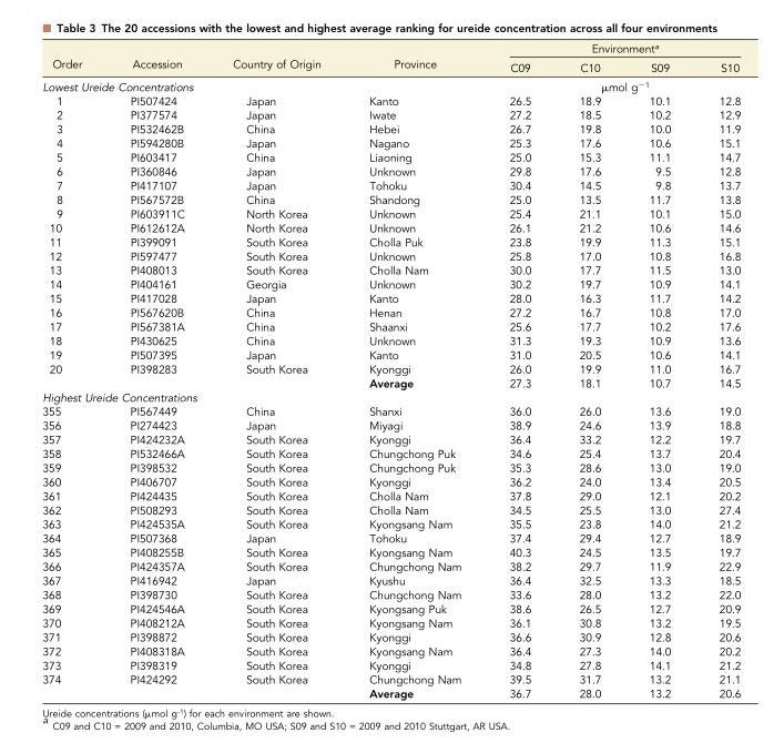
<table><thead><tr><td rowspan="2">Order</td><td rowspan="2">Accession</td><td rowspan="2">Country of Origin</td><td rowspan="2">Province</td><td colspan="4">Environment<sup>a</sup></td></tr><tr><td>C09</td><td>C10</td><td>S09</td><td>S10</td></tr></thead><tbody><tr><td colspan="3">Lowest Ureide Concentrations</td><td></td><td colspan="4">μmol g<sup>−1</sup></td></tr><tr><td>1</td><td>PI507424</td><td>Japan</td><td>Kanto</td><td>26.5</td><td>18.9</td><td>10.1</td><td>12.8</td></tr><tr><td>2</td><td>PI377574</td><td>Japan</td><td>Iwate</td><td>27.2</td><td>18.5</td><td>10.2</td><td>12.9</td></tr><tr><td>3</td><td>PI532462B</td><td>China</td><td>Hebei</td><td>26.7</td><td>19.8</td><td>10.0</td><td>11.9</td></tr><tr><td>4</td><td>PI594280B</td><td>Japan</td><td>Nagano</td><td>25.3</td><td>17.6</td><td>10.6</td><td>15.1</td></tr><tr><td>5</td><td>PI603417</td><td>China</td><td>Liaoning</td><td>25.0</td><td>15.3</td><td>11.1</td><td>14.7</td></tr><tr><td>6</td><td>PI360846</td><td>Japan</td><td>Unknown</td><td>29.8</td><td>17.6</td><td>9.5</td><td>12.8</td></tr><tr><td>7</td><td>PI417107</td><td>Japan</td><td>Tohoku</td><td>30.4</td><td>14.5</td><td>9.8</td><td>13.7</td></tr><tr><td>8</td><td>PI567572B</td><td>China</td><td>Shandong</td><td>25.0</td><td>13.5</td><td>11.7</td><td>13.8</td></tr><tr><td>9</td><td>PI603911C</td><td>North Korea</td><td>Unknown</td><td>25.4</td><td>21.1</td><td>10.1</td><td>15.0</td></tr><tr><td>10</td><td>PI612612A</td><td>North Korea</td><td>Unknown</td><td>26.1</td><td>21.2</td><td>10.6</td><td>14.6</td></tr><tr><td>11</td><td>PI399091</td><td>South Korea</td><td>Cholla Puk</td><td>23.8</td><td>19.9</td><td>11.3</td><td>15.1</td></tr><tr><td>12</td><td>PI597477</td><td>South Korea</td><td>Unknown</td><td>25.8</td><td>17.0</td><td>10.8</td><td>16.8</td></tr><tr><td>13</td><td>PI408013</td><td>South Korea</td><td>Cholla Nam</td><td>30.0</td><td>17.7</td><td>11.5</td><td>13.0</td></tr><tr><td>14</td><td>PI404161</td><td>Georgia</td><td>Unknown</td><td>30.2</td><td>19.7</td><td>10.9</td><td>14.1</td></tr><tr><td>15</td><td>PI417028</td><td>Japan</td><td>Kanto</td><td>28.0</td><td>16.3</td><td>11.7</td><td>14.2</td></tr><tr><td>16</td><td>PI567620B</td><td>China</td><td>Henan</td><td>27.2</td><td>16.7</td><td>10.8</td><td>17.0</td></tr><tr><td>17</td><td>PI567381A</td><td>China</td><td>Shaanxi</td><td>25.6</td><td>17.7</td><td>10.2</td><td>17.6</td></tr><tr><td>18</td><td>PI430625</td><td>China</td><td>Unknown</td><td>31.3</td><td>19.3</td><td>10.9</td><td>13.6</td></tr><tr><td>19</td><td>PI507395</td><td>Japan</td><td>Kanto</td><td>31.0</td><td>20.5</td><td>10.6</td><td>14.1</td></tr><tr><td rowspan="2">20</td><td>PI398283</td><td>South Korea</td><td>Kyonggi</td><td>26.0</td><td>19.9</td><td>11.0</td><td>16.7</td></tr><tr><td></td><td></td><td>Average</td><td>27.3</td><td>18.1</td><td>10.7</td><td>14.5</td></tr><tr><td colspan="8">Highest Ureide Concentrations</td></tr><tr><td>355</td><td>PI567449</td><td>China</td><td>Shanxi</td><td>36.0</td><td>26.0</td><td>13.6</td><td>19.0</td></tr><tr><td>356</td><td>PI274423</td><td>Japan</td><td>Miyagi</td><td>38.9</td><td>24.6</td><td>13.9</td><td>18.8</td></tr><tr><td>357</td><td>PI424232A</td><td>South Korea</td><td>Kyonggi</td><td>36.4</td><td>33.2</td><td>12.2</td><td>19.7</td></tr><tr><td>358</td><td>PI532466A</td><td>South Korea</td><td>Chungchong Puk</td><td>34.6</td><td>25.4</td><td>13.7</td><td>20.4</td></tr><tr><td>359</td><td>PI398532</td><td>South Korea</td><td>Chungchong Puk</td><td>35.3</td><td>28.6</td><td>13.0</td><td>19.0</td></tr><tr><td>360</td><td>PI406707</td><td>South Korea</td><td>Kyonggi</td><td>36.2</td><td>24.0</td><td>13.4</td><td>20.5</td></tr><tr><td>361</td><td>PI424435</td><td>South Korea</td><td>Cholla Nam</td><td>37.8</td><td>29.0</td><td>12.1</td><td>20.2</td></tr><tr><td>362</td><td>PI508293</td><td>South Korea</td><td>Cholla Nam</td><td>34.5</td><td>25.5</td><td>13.0</td><td>27.4</td></tr><tr><td>363</td><td>PI424535A</td><td>South Korea</td><td>Kyongsang Nam</td><td>35.5</td><td>23.8</td><td>14.0</td><td>21.2</td></tr><tr><td>364</td><td>PI507368</td><td>Japan</td><td>Tohoku</td><td>37.4</td><td>29.4</td><td>12.7</td><td>18.9</td></tr><tr><td>365</td><td>PI408255B</td><td>South Korea</td><td>Kyongsang Nam</td><td>40.3</td><td>24.5</td><td>13.5</td><td>19.7</td></tr><tr><td>366</td><td>PI424357A</td><td>South Korea</td><td>Chungchong Nam</td><td>38.2</td><td>29.7</td><td>11.9</td><td>22.9</td></tr><tr><td>367</td><td>PI416942</td><td>Japan</td><td>Kyushu</td><td>36.4</td><td>32.5</td><td>13.3</td><td>18.5</td></tr><tr><td>368</td><td>PI398730</td><td>South Korea</td><td>Chungchong Nam</td><td>33.6</td><td>28.0</td><td>13.2</td><td>22.0</td></tr><tr><td>369</td><td>PI424546A</td><td>South Korea</td><td>Kyongsang Puk</td><td>38.6</td><td>26.5</td><td>12.7</td><td>20.9</td></tr><tr><td>370</td><td>PI408212A</td><td>South Korea</td><td>Kyongsang Nam</td><td>36.1</td><td>30.8</td><td>13.2</td><td>19.5</td></tr><tr><td>371</td><td>PI398872</td><td>South Korea</td><td>Kyonggi</td><td>36.6</td><td>30.9</td><td>12.8</td><td>20.6</td></tr><tr><td>372</td><td>PI408318A</td><td>South Korea</td><td>Kyongsang Nam</td><td>36.4</td><td>27.3</td><td>14.0</td><td>20.2</td></tr><tr><td>373</td><td>PI398319</td><td>South Korea</td><td>Kyonggi</td><td>34.8</td><td>27.8</td><td>14.1</td><td>21.2</td></tr><tr><td rowspan="2">374</td><td>PI424292</td><td>South Korea</td><td>Chungchong Nam</td><td>39.5</td><td>31.7</td><td>13.2</td><td>21.1</td></tr><tr><td></td><td></td><td>Average</td><td>36.7</td><td>28.0</td><td>13.2</td><td>20.6</td></tr></tbody></table>